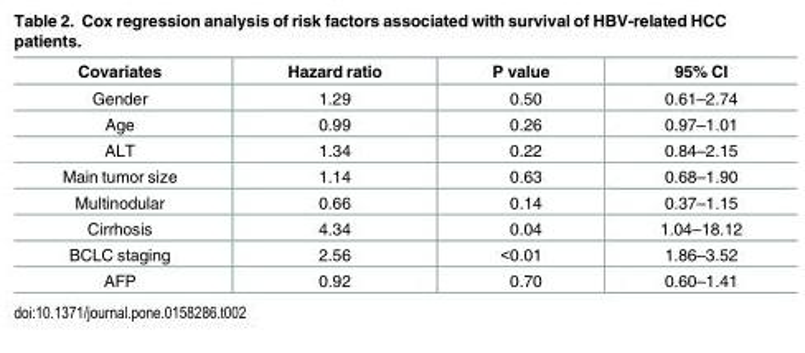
<table><thead><tr><td>Covariates</td><td>Hazard ratio</td><td>P value</td><td>95% CI</td></tr></thead><tbody><tr><td>Gender</td><td>1.29</td><td>0.50</td><td>0.61–2.74</td></tr><tr><td>Age</td><td>0.99</td><td>0.26</td><td>0.97–1.01</td></tr><tr><td>ALT</td><td>1.34</td><td>0.22</td><td>0.84–2.15</td></tr><tr><td>Main tumor size</td><td>1.14</td><td>0.63</td><td>0.68–1.90</td></tr><tr><td>Multinodular</td><td>0.66</td><td>0.14</td><td>0.37–1.15</td></tr><tr><td>Cirrhosis</td><td>4.34</td><td>0.04</td><td>1.04–18.12</td></tr><tr><td>BCLC staging</td><td>2.56</td><td>&lt;0.01</td><td>1.86–3.52</td></tr><tr><td>AFP</td><td>0.92</td><td>0.70</td><td>0.60–1.41</td></tr></tbody></table>